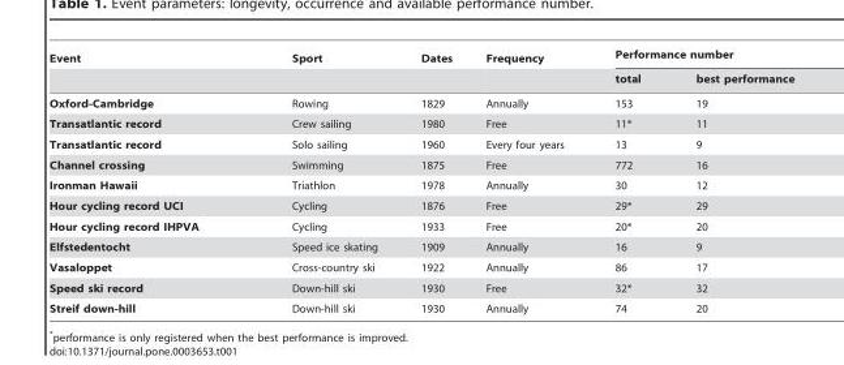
<table><thead><tr><td rowspan="2">Event</td><td rowspan="2">Sport</td><td rowspan="2">Dates</td><td rowspan="2">Frequency</td><td colspan="2">Performance number</td></tr><tr><td>total</td><td>best performance</td></tr></thead><tbody><tr><td>Oxford-Cambridge</td><td>Rowing</td><td>1829</td><td>Annually</td><td>153</td><td>19</td></tr><tr><td>Transatlantic record</td><td>Crew sailing</td><td>1980</td><td>Free</td><td>11*</td><td>11</td></tr><tr><td>Transatlantic record</td><td>Solo sailing</td><td>1960</td><td>Every four years</td><td>13</td><td>9</td></tr><tr><td>Channel crossing</td><td>Swimming</td><td>1875</td><td>Free</td><td>772</td><td>16</td></tr><tr><td>Ironman Hawaii</td><td>Triathlon</td><td>1978</td><td>Annually</td><td>30</td><td>12</td></tr><tr><td>Hour cycling record UCI</td><td>Cycling</td><td>1876</td><td>Free</td><td>29*</td><td>29</td></tr><tr><td>Hour cycling record IHPVA</td><td>Cycling</td><td>1933</td><td>Free</td><td>20*</td><td>20</td></tr><tr><td>Elfstedentocht</td><td>Speed ice skating</td><td>1909</td><td>Annually</td><td>16</td><td>9</td></tr><tr><td>Vasaloppet</td><td>Cross-country ski</td><td>1922</td><td>Annually</td><td>86</td><td>17</td></tr><tr><td>Speed ski record</td><td>Down-hill ski</td><td>1930</td><td>Free</td><td>32*</td><td>32</td></tr><tr><td>Streif down-hill</td><td>Down-hill ski</td><td>1930</td><td>Annually</td><td>74</td><td>20</td></tr></tbody></table>